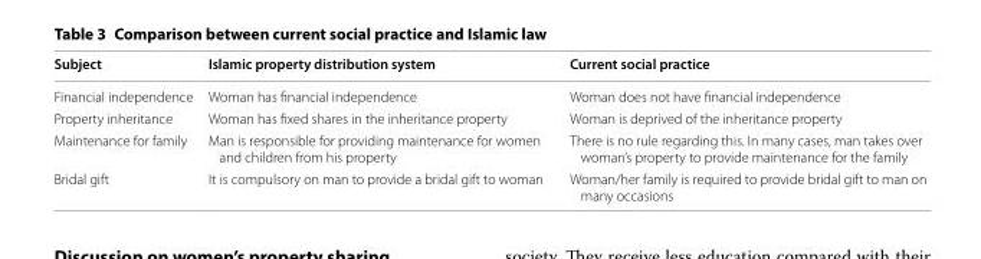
<table><thead><tr><td>Subject</td><td>Islamic property distribution system</td><td>Current social practice</td></tr></thead><tbody><tr><td>Financial independence</td><td>Woman has financial independence</td><td>Woman does not have financial independence</td></tr><tr><td>Property inheritance</td><td>Woman has fixed shares in the inheritance property</td><td>Woman is deprived of the inheritance property</td></tr><tr><td>Maintenance for family</td><td>Man is responsible for providing maintenance for women and children from his property</td><td>There is no rule regarding this. In many cases, man takes over woman’s property to provide maintenance for the family</td></tr><tr><td>Bridal gift</td><td>It is compulsory on man to provide a bridal gift to woman</td><td>Woman/her family is required to provide bridal gift to man on many occasions</td></tr></tbody></table>